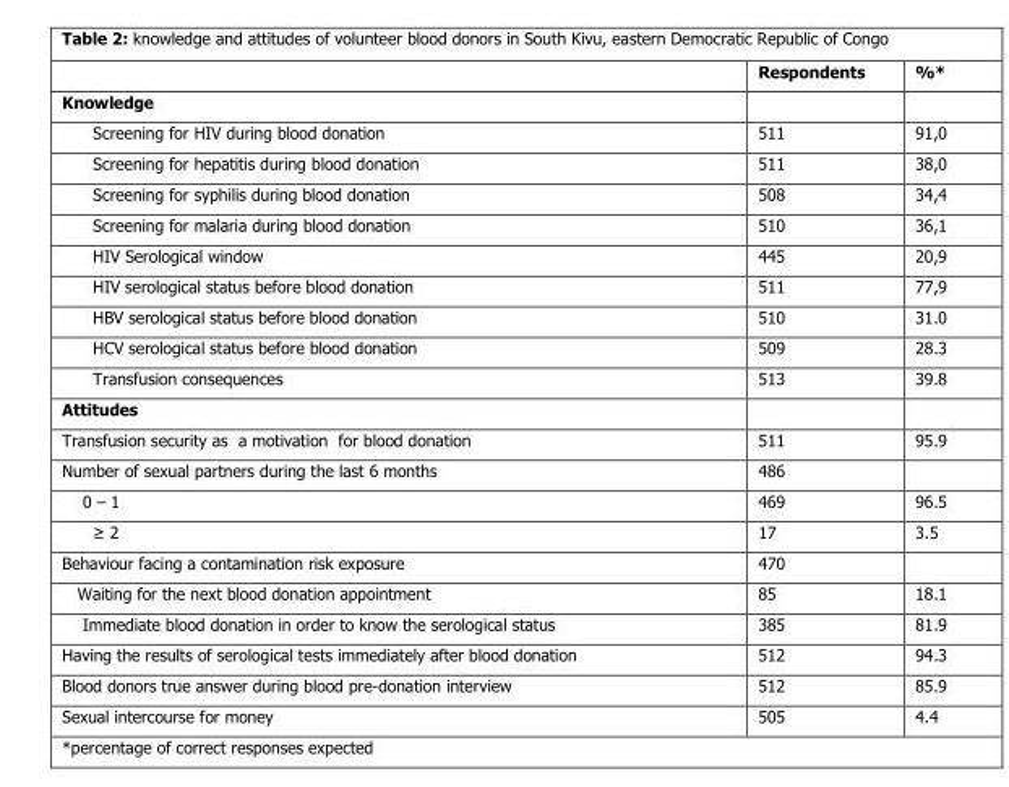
<table><thead><tr><td></td><td>Respondents</td><td>%*</td></tr></thead><tbody><tr><td colspan="3">Knowledge</td></tr><tr><td>Screening for HIV during blood donation</td><td>511</td><td>91,0</td></tr><tr><td>Screening for hepatitis during blood donation</td><td>511</td><td>38,0</td></tr><tr><td>Screening for syphilis during blood donation</td><td>508</td><td>34,4</td></tr><tr><td>Screening for malaria during blood donation</td><td>510</td><td>36,1</td></tr><tr><td>HIV Serological window</td><td>445</td><td>20,9</td></tr><tr><td>HIV serological status before blood donation</td><td>511</td><td>77,9</td></tr><tr><td>HBV serological status before blood donation</td><td>510</td><td>31.0</td></tr><tr><td>HCV serological status before blood donation</td><td>509</td><td>28.3</td></tr><tr><td>Transfusion consequences</td><td>513</td><td>39.8</td></tr><tr><td colspan="3">Attitudes</td></tr><tr><td>Transfusion security as a motivation for blood donation</td><td>511</td><td>95.9</td></tr><tr><td>Number of sexual partners during the last 6 months</td><td>486</td><td></td></tr><tr><td>0 – 1</td><td>469</td><td>96.5</td></tr><tr><td>≥ 2</td><td>17</td><td>3.5</td></tr><tr><td>Behaviour facing a contamination risk exposure</td><td>470</td><td></td></tr><tr><td>Waiting for the next blood donation appointment</td><td>85</td><td>18.1</td></tr><tr><td>Immediate blood donation in order to know the serological status</td><td>385</td><td>81.9</td></tr><tr><td>Having the results of serological tests immediately after blood donation</td><td>512</td><td>94.3</td></tr><tr><td>Blood donors true answer during blood pre-donation interview</td><td>512</td><td>85.9</td></tr><tr><td>Sexual intercourse for money</td><td>505</td><td>4.4</td></tr></tbody></table>